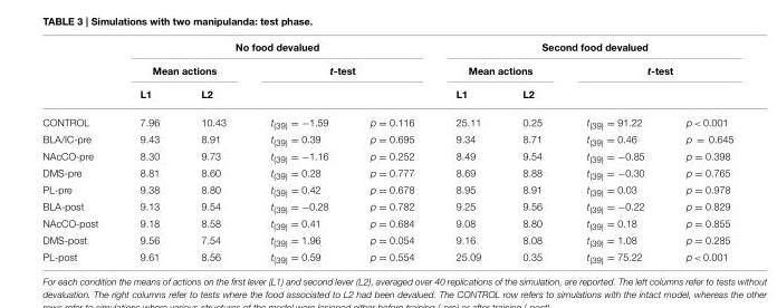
<table><thead><tr><td rowspan="3"></td><td colspan="4">No food devalued</td><td colspan="4">Second food devalued</td></tr><tr><td colspan="2">Mean actions</td><td colspan="2">t-test</td><td colspan="2">Mean actions</td><td colspan="2">t-test</td></tr><tr><td>L1</td><td>L2</td><td></td><td></td><td>L1</td><td>L2</td><td></td><td></td></tr></thead><tbody><tr><td>CONTROL</td><td>7.96</td><td>10.43</td><td>t<sub>(39)</sub> = −1.59</td><td>p = 0.116</td><td>25.11</td><td>0.25</td><td>t<sub>(39)</sub> = 91.22</td><td>p &lt; 0.001</td></tr><tr><td>BLA/IC-pre</td><td>9.43</td><td>8.91</td><td>t<sub>(39)</sub> = 0.39</td><td>p = 0.695</td><td>9.34</td><td>8.71</td><td>t<sub>(39)</sub> = 0.46</td><td>p = 0.645</td></tr><tr><td>NAcCO-pre</td><td>8.30</td><td>9.73</td><td>t<sub>(39)</sub> = −1.16</td><td>p = 0.252</td><td>8.49</td><td>9.54</td><td>t<sub>(39)</sub> = −0.85</td><td>p = 0.398</td></tr><tr><td>DMS-pre</td><td>8.81</td><td>8.60</td><td>t<sub>(39)</sub> = 0.28</td><td>p = 0.777</td><td>8.69</td><td>8.88</td><td>t<sub>(39)</sub> = −0.30</td><td>p = 0.765</td></tr><tr><td>PL-pre</td><td>9.38</td><td>8.80</td><td>t<sub>(39)</sub> = 0.42</td><td>p = 0.678</td><td>8.95</td><td>8.91</td><td>t<sub>(39)</sub> = 0.03</td><td>p = 0.978</td></tr><tr><td>BLA-post</td><td>9.13</td><td>9.54</td><td>t<sub>(39)</sub> = −0.28</td><td>p = 0.782</td><td>9.25</td><td>9.56</td><td>t<sub>(39)</sub> = −0.22</td><td>p = 0.829</td></tr><tr><td>NAcCO-post</td><td>9.18</td><td>8.58</td><td>t<sub>(39)</sub> = 0.41</td><td>p = 0.684</td><td>9.08</td><td>8.80</td><td>t<sub>(39)</sub> = 0.18</td><td>p = 0.855</td></tr><tr><td>DMS-post</td><td>9.56</td><td>7.54</td><td>t<sub>(39)</sub> = 1.96</td><td>p = 0.054</td><td>9.16</td><td>8.08</td><td>t<sub>(39)</sub> = 1.08</td><td>p = 0.285</td></tr><tr><td>PL-post</td><td>9.61</td><td>8.56</td><td>t<sub>(39)</sub> = 0.59</td><td>p = 0.554</td><td>25.09</td><td>0.35</td><td>t<sub>(39)</sub> = 75.22</td><td>p &lt; 0.001</td></tr></tbody></table>